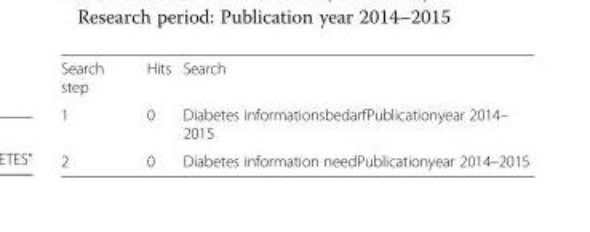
<table><tbody><tr><td>Search step</td><td>Hits</td><td>Search</td></tr><tr><td>1</td><td>0</td><td>Diabetes informationsbedarfPublicationyear 2014– 2015</td></tr><tr><td>2</td><td>0</td><td>Diabetes information needPublicationyear 2014–2015</td></tr></tbody></table>